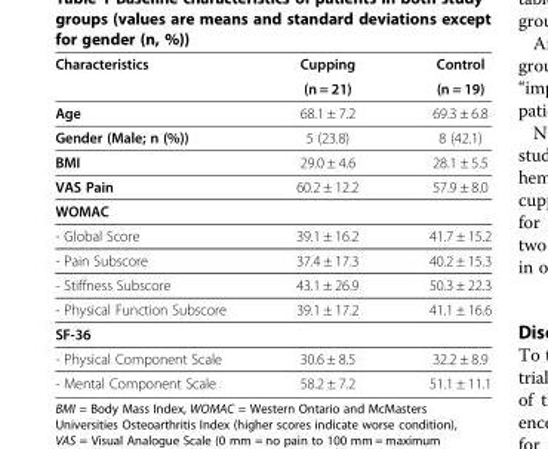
<table><thead><tr><td rowspan="2">Characteristics</td><td rowspan="2">Cupping (n = 21)</td><td rowspan="2">Control (n = 19)</td></tr><tr></tr></thead><tbody><tr><td>Age</td><td>68.1 ± 7.2</td><td>69.3 ± 6.8</td></tr><tr><td>Gender (Male; n (%))</td><td>5 (23.8)</td><td>8 (42.1)</td></tr><tr><td>BMI</td><td>29.0 ± 4.6</td><td>28.1 ± 5.5</td></tr><tr><td>VAS Pain</td><td>60.2 ± 12.2</td><td>57.9 ± 8.0</td></tr><tr><td colspan="3">WOMAC</td></tr><tr><td>- Global Score</td><td>39.1 ± 16.2</td><td>41.7 ± 15.2</td></tr><tr><td>- Pain Subscore</td><td>37.4 ± 17.3</td><td>40.2 ± 15.3</td></tr><tr><td>- Stiffness Subscore</td><td>43.1 ± 26.9</td><td>50.3 ± 22.3</td></tr><tr><td>- Physical Function Subscore</td><td>39.1 ± 17.2</td><td>41.1 ± 16.6</td></tr><tr><td colspan="3">SF-36</td></tr><tr><td>- Physical Component Scale</td><td>30.6 ± 8.5</td><td>32.2 ± 8.9</td></tr><tr><td>- Mental Component Scale</td><td>58.2 ± 7.2</td><td>51.1 ± 11.1</td></tr></tbody></table>